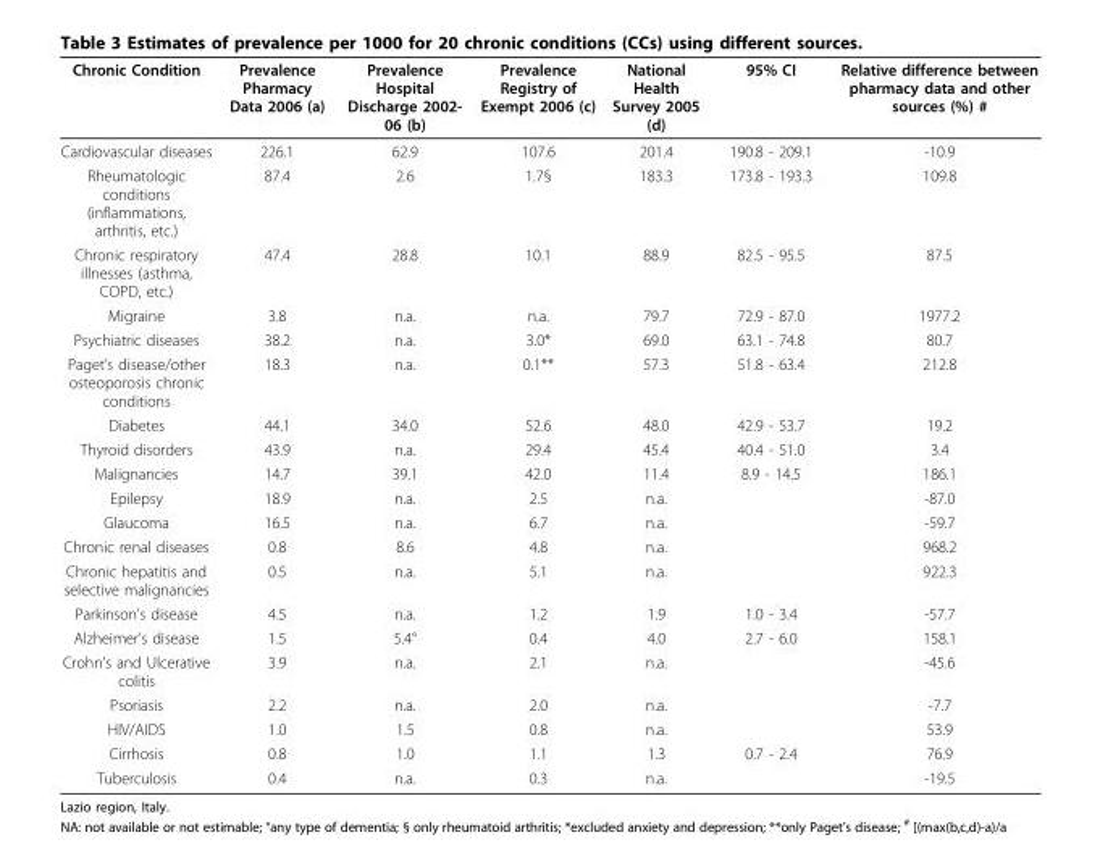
<table><thead><tr><td>Chronic Condition</td><td>Prevalence Pharmacy Data 2006 (a)</td><td>Prevalence Hospital Discharge 2002- 06 (b)</td><td>Prevalence Registry of Exempt 2006 (c)</td><td>National Health Survey 2005 (d)</td><td>95% CI</td><td>Relative difference between pharmacy data and other sources (%) #</td></tr></thead><tbody><tr><td>Cardiovascular diseases</td><td>226.1</td><td>62.9</td><td>107.6</td><td>201.4</td><td>190.8 - 209.1</td><td>-10.9</td></tr><tr><td>Rheumatologic conditions (inflammations, arthritis, etc.)</td><td>87.4</td><td>2.6</td><td>1.7§</td><td>183.3</td><td>173.8 - 193.3</td><td>109.8</td></tr><tr><td>Chronic respiratory illnesses (asthma, COPD, etc.)</td><td>47.4</td><td>28.8</td><td>10.1</td><td>88.9</td><td>82.5 - 95.5</td><td>87.5</td></tr><tr><td>Migraine</td><td>3.8</td><td>n.a.</td><td>n.a.</td><td>79.7</td><td>72.9 - 87.0</td><td>1977.2</td></tr><tr><td>Psychiatric diseases</td><td>38.2</td><td>n.a.</td><td>3.0*</td><td>69.0</td><td>63.1 - 74.8</td><td>80.7</td></tr><tr><td>Paget’s disease/other osteoporosis chronic conditions</td><td>18.3</td><td>n.a.</td><td>0.1**</td><td>57.3</td><td>51.8 - 63.4</td><td>212.8</td></tr><tr><td>Diabetes</td><td>44.1</td><td>34.0</td><td>52.6</td><td>48.0</td><td>42.9 - 53.7</td><td>19.2</td></tr><tr><td>Thyroid disorders</td><td>43.9</td><td>n.a.</td><td>29.4</td><td>45.4</td><td>40.4 - 51.0</td><td>3.4</td></tr><tr><td>Malignancies</td><td>14.7</td><td>39.1</td><td>42.0</td><td>11.4</td><td>8.9 - 14.5</td><td>186.1</td></tr><tr><td>Epilepsy</td><td>18.9</td><td>n.a.</td><td>2.5</td><td>n.a.</td><td></td><td>-87.0</td></tr><tr><td>Glaucoma</td><td>16.5</td><td>n.a.</td><td>6.7</td><td>n.a.</td><td></td><td>-59.7</td></tr><tr><td>Chronic renal diseases</td><td>0.8</td><td>8.6</td><td>4.8</td><td>n.a.</td><td></td><td>968.2</td></tr><tr><td>Chronic hepatitis and selective malignancies</td><td>0.5</td><td>n.a.</td><td>5.1</td><td>n.a.</td><td></td><td>922.3</td></tr><tr><td>Parkinson’s disease</td><td>4.5</td><td>n.a.</td><td>1.2</td><td>1.9</td><td>1.0 - 3.4</td><td>-57.7</td></tr><tr><td>Alzheimer’s disease</td><td>1.5</td><td>5.4°</td><td>0.4</td><td>4.0</td><td>2.7 - 6.0</td><td>158.1</td></tr><tr><td>Crohn’s and Ulcerative colitis</td><td>3.9</td><td>n.a.</td><td>2.1</td><td>n.a.</td><td></td><td>-45.6</td></tr><tr><td>Psoriasis</td><td>2.2</td><td>n.a.</td><td>2.0</td><td>n.a.</td><td></td><td>-7.7</td></tr><tr><td>HIV/AIDS</td><td>1.0</td><td>1.5</td><td>0.8</td><td>n.a.</td><td></td><td>53.9</td></tr><tr><td>Cirrhosis</td><td>0.8</td><td>1.0</td><td>1.1</td><td>1.3</td><td>0.7 - 2.4</td><td>76.9</td></tr><tr><td>Tuberculosis</td><td>0.4</td><td>n.a.</td><td>0.3</td><td>n.a.</td><td></td><td>-19.5</td></tr></tbody></table>